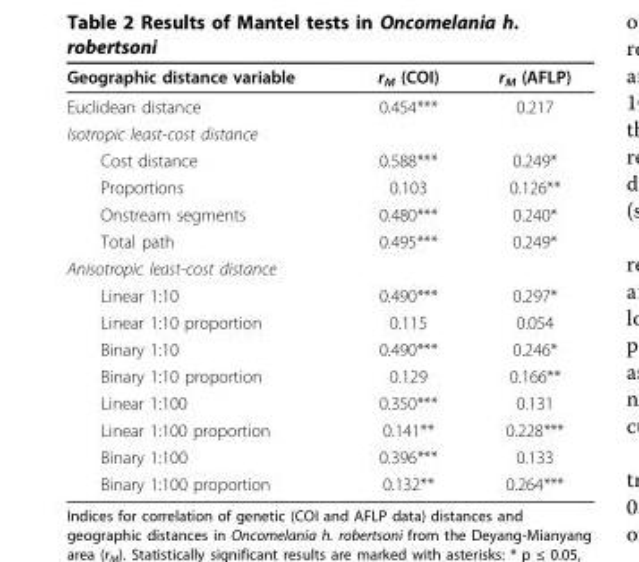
<table><thead><tr><td>Geographic distance variable</td><td>r<sub>M</sub> (COI)</td><td>r<sub>M</sub> (AFLP)</td></tr></thead><tbody><tr><td>Euclidean distance</td><td>0.454***</td><td>0.217</td></tr><tr><td colspan="3">Isotropic least-cost distance</td></tr><tr><td>Cost distance</td><td>0.588***</td><td>0.249*</td></tr><tr><td>Proportions</td><td>0.103</td><td>0.126**</td></tr><tr><td>Onstream segments</td><td>0.480***</td><td>0.240*</td></tr><tr><td>Total path</td><td>0.495***</td><td>0.249*</td></tr><tr><td colspan="3">Anisotropic least-cost distance</td></tr><tr><td>Linear 1:10</td><td>0.490***</td><td>0.297*</td></tr><tr><td>Linear 1:10 proportion</td><td>0.115</td><td>0.054</td></tr><tr><td>Binary 1:10</td><td>0.490***</td><td>0.246*</td></tr><tr><td>Binary 1:10 proportion</td><td>0.129</td><td>0.166**</td></tr><tr><td>Linear 1:100</td><td>0.350***</td><td>0.131</td></tr><tr><td>Linear 1:100 proportion</td><td>0.141**</td><td>0.228***</td></tr><tr><td>Binary 1:100</td><td>0.396***</td><td>0.133</td></tr><tr><td>Binary 1:100 proportion</td><td>0.132**</td><td>0.264***</td></tr></tbody></table>